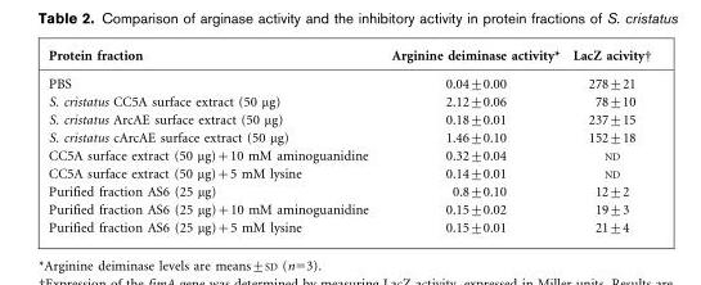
<table><thead><tr><td>Protein fraction</td><td>Arginine deiminase activity*</td><td>LacZ acivity†</td></tr></thead><tbody><tr><td>PBS</td><td>0.04±0.00</td><td>278±21</td></tr><tr><td>S. cristatus CC5A surface extract (50 μg)</td><td>2.12±0.06</td><td>78±10</td></tr><tr><td>S. cristatus ArcAE surface extract (50 μg)</td><td>0.18±0.01</td><td>237±15</td></tr><tr><td>S. cristatus cArcAE surface extract (50 μg)</td><td>1.46±0.10</td><td>152±18</td></tr><tr><td>CC5A surface extract (50 μg)+10 mM aminoguanidine</td><td>0.32±0.04</td><td>ND</td></tr><tr><td>CC5A surface extract (50 μg)+5 mM lysine</td><td>0.14±0.01</td><td>ND</td></tr><tr><td>Purified fraction AS6 (25 μg)</td><td>0.8±0.10</td><td>12±2</td></tr><tr><td>Purified fraction AS6 (25 μg)+10 mM aminoguanidine</td><td>0.15±0.02</td><td>19±3</td></tr><tr><td>Purified fraction AS6 (25 μg)+5 mM lysine</td><td>0.15±0.01</td><td>21±4</td></tr></tbody></table>